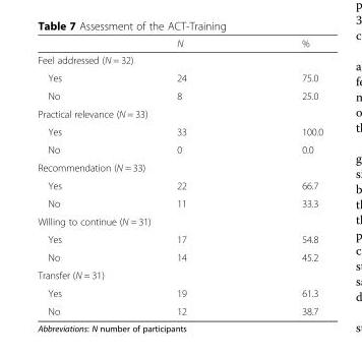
<table><thead><tr><td></td><td>N</td><td>%</td></tr></thead><tbody><tr><td colspan="3">Feel addressed (N = 32)</td></tr><tr><td>Yes</td><td>24</td><td>75.0</td></tr><tr><td>No</td><td>8</td><td>25.0</td></tr><tr><td colspan="3">Practical relevance (N = 33)</td></tr><tr><td>Yes</td><td>33</td><td>100.0</td></tr><tr><td>No</td><td>0</td><td>0.0</td></tr><tr><td colspan="3">Recommendation (N = 33)</td></tr><tr><td>Yes</td><td>22</td><td>66.7</td></tr><tr><td>No</td><td>11</td><td>33.3</td></tr><tr><td colspan="3">Willing to continue (N = 31)</td></tr><tr><td>Yes</td><td>17</td><td>54.8</td></tr><tr><td>No</td><td>14</td><td>45.2</td></tr><tr><td colspan="3">Transfer (N = 31)</td></tr><tr><td>Yes</td><td>19</td><td>61.3</td></tr><tr><td>No</td><td>12</td><td>38.7</td></tr></tbody></table>